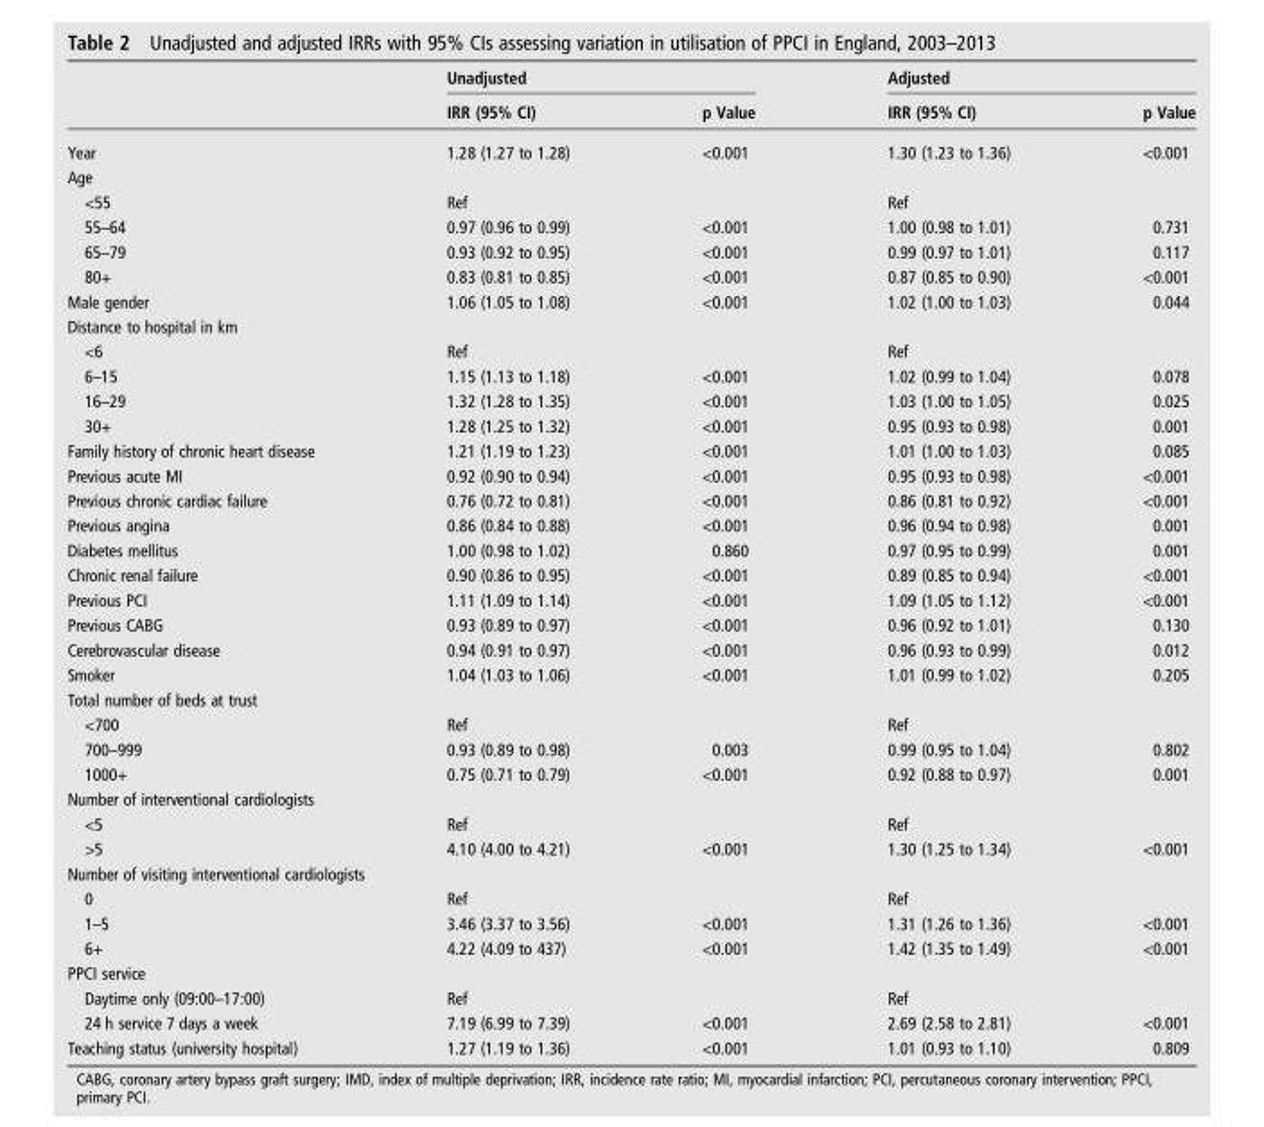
<table><thead><tr><td rowspan="2"></td><td colspan="2">Unadjusted</td><td colspan="2">Adjusted</td></tr><tr><td>IRR (95% CI)</td><td>p Value</td><td>IRR (95% CI)</td><td>p Value</td></tr></thead><tbody><tr><td>Year</td><td>1.28 (1.27 to 1.28)</td><td>&lt;0.001</td><td>1.30 (1.23 to 1.36)</td><td>&lt;0.001</td></tr><tr><td colspan="5">Age</td></tr><tr><td>&lt;55</td><td>Ref</td><td></td><td>Ref</td><td></td></tr><tr><td>55–64</td><td>0.97 (0.96 to 0.99)</td><td>&lt;0.001</td><td>1.00 (0.98 to 1.01)</td><td>0.731</td></tr><tr><td>65–79</td><td>0.93 (0.92 to 0.95)</td><td>&lt;0.001</td><td>0.99 (0.97 to 1.01)</td><td>0.117</td></tr><tr><td>80+</td><td>0.83 (0.81 to 0.85)</td><td>&lt;0.001</td><td>0.87 (0.85 to 0.90)</td><td>&lt;0.001</td></tr><tr><td>Male gender</td><td>1.06 (1.05 to 1.08)</td><td>&lt;0.001</td><td>1.02 (1.00 to 1.03)</td><td>0.044</td></tr><tr><td colspan="5">Distance to hospital in km</td></tr><tr><td>&lt;6</td><td>Ref</td><td></td><td>Ref</td><td></td></tr><tr><td>6–15</td><td>1.15 (1.13 to 1.18)</td><td>&lt;0.001</td><td>1.02 (0.99 to 1.04)</td><td>0.078</td></tr><tr><td>16–29</td><td>1.32 (1.28 to 1.35)</td><td>&lt;0.001</td><td>1.03 (1.00 to 1.05)</td><td>0.025</td></tr><tr><td>30+</td><td>1.28 (1.25 to 1.32)</td><td>&lt;0.001</td><td>0.95 (0.93 to 0.98)</td><td>0.001</td></tr><tr><td>Family history of chronic heart disease</td><td>1.21 (1.19 to 1.23)</td><td>&lt;0.001</td><td>1.01 (1.00 to 1.03)</td><td>0.085</td></tr><tr><td>Previous acute MI</td><td>0.92 (0.90 to 0.94)</td><td>&lt;0.001</td><td>0.95 (0.93 to 0.98)</td><td>&lt;0.001</td></tr><tr><td>Previous chronic cardiac failure</td><td>0.76 (0.72 to 0.81)</td><td>&lt;0.001</td><td>0.86 (0.81 to 0.92)</td><td>&lt;0.001</td></tr><tr><td>Previous angina</td><td>0.86 (0.84 to 0.88)</td><td>&lt;0.001</td><td>0.96 (0.94 to 0.98)</td><td>0.001</td></tr><tr><td>Diabetes mellitus</td><td>1.00 (0.98 to 1.02)</td><td>0.860</td><td>0.97 (0.95 to 0.99)</td><td>0.001</td></tr><tr><td>Chronic renal failure</td><td>0.90 (0.86 to 0.95)</td><td>&lt;0.001</td><td>0.89 (0.85 to 0.94)</td><td>&lt;0.001</td></tr><tr><td>Previous PCI</td><td>1.11 (1.09 to 1.14)</td><td>&lt;0.001</td><td>1.09 (1.05 to 1.12)</td><td>&lt;0.001</td></tr><tr><td>Previous CABG</td><td>0.93 (0.89 to 0.97)</td><td>&lt;0.001</td><td>0.96 (0.92 to 1.01)</td><td>0.130</td></tr><tr><td>Cerebrovascular disease</td><td>0.94 (0.91 to 0.97)</td><td>&lt;0.001</td><td>0.96 (0.93 to 0.99)</td><td>0.012</td></tr><tr><td>Smoker</td><td>1.04 (1.03 to 1.06)</td><td>&lt;0.001</td><td>1.01 (0.99 to 1.02)</td><td>0.205</td></tr><tr><td colspan="5">Total number of beds at trust</td></tr><tr><td>&lt;700</td><td>Ref</td><td></td><td>Ref</td><td></td></tr><tr><td>700–999</td><td>0.93 (0.89 to 0.98)</td><td>0.003</td><td>0.99 (0.95 to 1.04)</td><td>0.802</td></tr><tr><td>1000+</td><td>0.75 (0.71 to 0.79)</td><td>&lt;0.001</td><td>0.92 (0.88 to 0.97)</td><td>0.001</td></tr><tr><td colspan="5">Number of interventional cardiologists</td></tr><tr><td>&lt;5</td><td>Ref</td><td></td><td>Ref</td><td></td></tr><tr><td>&gt;5</td><td>4.10 (4.00 to 4.21)</td><td>&lt;0.001</td><td>1.30 (1.25 to 1.34)</td><td>&lt;0.001</td></tr><tr><td colspan="5">Number of visiting interventional cardiologists</td></tr><tr><td>0</td><td>Ref</td><td></td><td>Ref</td><td></td></tr><tr><td>1–5</td><td>3.46 (3.37 to 3.56)</td><td>&lt;0.001</td><td>1.31 (1.26 to 1.36)</td><td>&lt;0.001</td></tr><tr><td>6+</td><td>4.22 (4.09 to 437)</td><td>&lt;0.001</td><td>1.42 (1.35 to 1.49)</td><td>&lt;0.001</td></tr><tr><td colspan="5">PPCI service</td></tr><tr><td>Daytime only (09:00–17:00)</td><td>Ref</td><td></td><td>Ref</td><td></td></tr><tr><td>24 h service 7 days a week</td><td>7.19 (6.99 to 7.39)</td><td>&lt;0.001</td><td>2.69 (2.58 to 2.81)</td><td>&lt;0.001</td></tr><tr><td>Teaching status (university hospital)</td><td>1.27 (1.19 to 1.36)</td><td>&lt;0.001</td><td>1.01 (0.93 to 1.10)</td><td>0.809</td></tr></tbody></table>